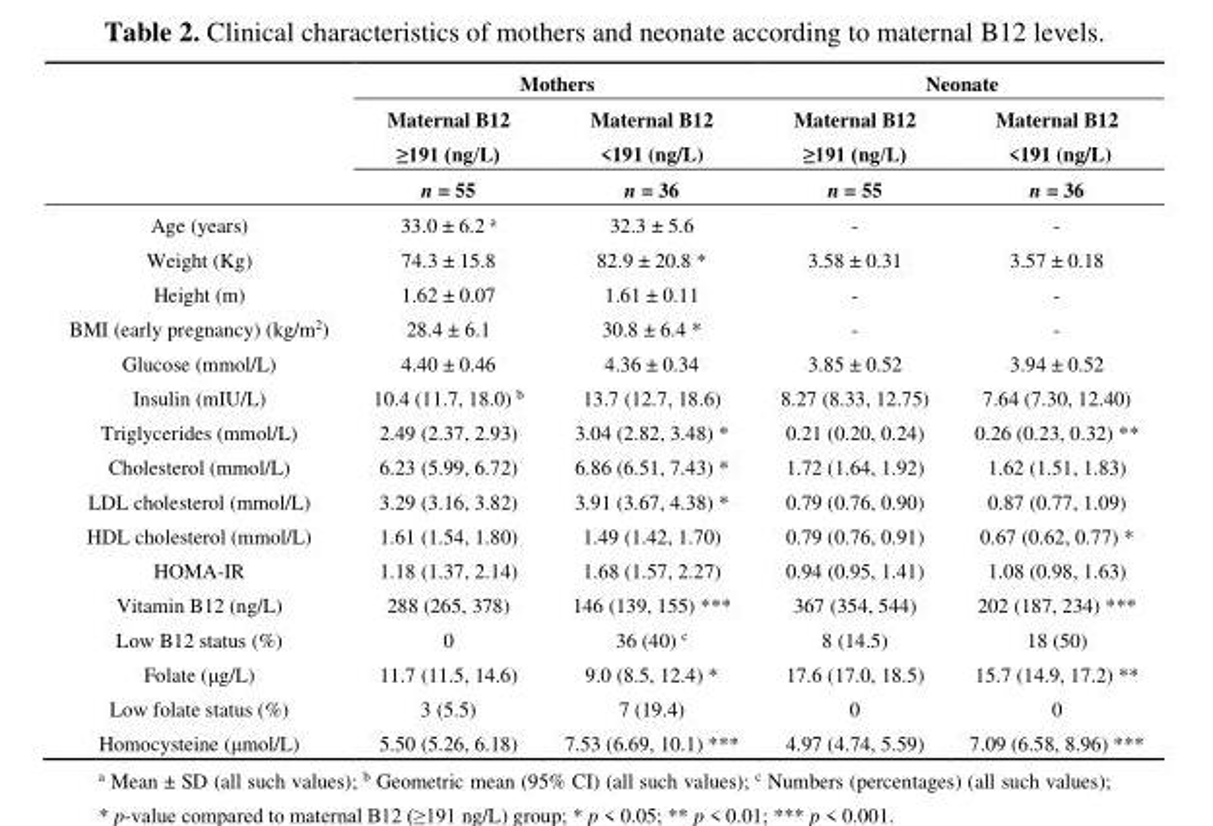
<table><thead><tr><td rowspan="3"></td><td colspan="2">Mothers</td><td colspan="2">Neonate</td></tr><tr><td rowspan="2">Maternal B12 ≥191 (ng/L) n = 55</td><td rowspan="2">Maternal B12 &lt;191 (ng/L) n = 36</td><td rowspan="2">Maternal B12 ≥191 (ng/L) n = 55</td><td rowspan="2">Maternal B12 &lt;191 (ng/L) n = 36</td></tr><tr></tr></thead><tbody><tr><td>Age (years)</td><td>33.0 ± 6.2 <sup>a</sup></td><td>32.3 ± 5.6</td><td>-</td><td>-</td></tr><tr><td>Weight (Kg)</td><td>74.3 ± 15.8</td><td>82.9 ± 20.8 *</td><td>3.58 ± 0.31</td><td>3.57 ± 0.18</td></tr><tr><td>Height (m)</td><td>1.62 ± 0.07</td><td>1.61 ± 0.11</td><td>-</td><td>-</td></tr><tr><td>BMI (early pregnancy) (kg/m<sup>2</sup>)</td><td>28.4 ± 6.1</td><td>30.8 ± 6.4 *</td><td>-</td><td>-</td></tr><tr><td>Glucose (mmol/L)</td><td>4.40 ± 0.46</td><td>4.36 ± 0.34</td><td>3.85 ± 0.52</td><td>3.94 ± 0.52</td></tr><tr><td>Insulin (mIU/L)</td><td>10.4 (11.7, 18.0) <sup>b</sup></td><td>13.7 (12.7, 18.6)</td><td>8.27 (8.33, 12.75)</td><td>7.64 (7.30, 12.40)</td></tr><tr><td>Triglycerides (mmol/L)</td><td>2.49 (2.37, 2.93)</td><td>3.04 (2.82, 3.48) *</td><td>0.21 (0.20, 0.24)</td><td>0.26 (0.23, 0.32) **</td></tr><tr><td>Cholesterol (mmol/L)</td><td>6.23 (5.99, 6.72)</td><td>6.86 (6.51, 7.43) *</td><td>1.72 (1.64, 1.92)</td><td>1.62 (1.51, 1.83)</td></tr><tr><td>LDL cholesterol (mmol/L)</td><td>3.29 (3.16, 3.82)</td><td>3.91 (3.67, 4.38) *</td><td>0.79 (0.76, 0.90)</td><td>0.87 (0.77, 1.09)</td></tr><tr><td>HDL cholesterol (mmol/L)</td><td>1.61 (1.54, 1.80)</td><td>1.49 (1.42, 1.70)</td><td>0.79 (0.76, 0.91)</td><td>0.67 (0.62, 0.77) *</td></tr><tr><td>HOMA-IR</td><td>1.18 (1.37, 2.14)</td><td>1.68 (1.57, 2.27)</td><td>0.94 (0.95, 1.41)</td><td>1.08 (0.98, 1.63)</td></tr><tr><td>Vitamin B12 (ng/L)</td><td>288 (265, 378)</td><td>146 (139, 155) ***</td><td>367 (354, 544)</td><td>202 (187, 234) ***</td></tr><tr><td>Low B12 status (%)</td><td>0</td><td>36 (40) <sup>c</sup></td><td>8 (14.5)</td><td>18 (50)</td></tr><tr><td>Folate (μg/L)</td><td>11.7 (11.5, 14.6)</td><td>9.0 (8.5, 12.4) *</td><td>17.6 (17.0, 18.5)</td><td>15.7 (14.9, 17.2) **</td></tr><tr><td>Low folate status (%)</td><td>3 (5.5)</td><td>7 (19.4)</td><td>0</td><td>0</td></tr><tr><td>Homocysteine (μmol/L)</td><td>5.50 (5.26, 6.18)</td><td>7.53 (6.69, 10.1) ***</td><td>4.97 (4.74, 5.59)</td><td>7.09 (6.58, 8.96) ***</td></tr></tbody></table>